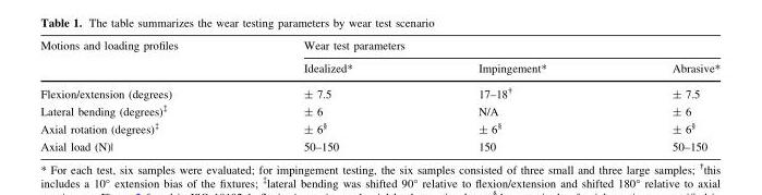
<table><thead><tr><td rowspan="2">Motions and loading profiles</td><td colspan="3">Wear test parameters</td></tr><tr><td>Idealized*</td><td>Impingement*</td><td>Abrasive*</td></tr></thead><tbody><tr><td>Flexion/extension (degrees)</td><td>± 7.5</td><td>17–18<sup>†</sup></td><td>± 7.5</td></tr><tr><td>Lateral bending (degrees)<sup>‡</sup></td><td>± 6</td><td>N/A</td><td>± 6</td></tr><tr><td>Axial rotation (degrees)<sup>‡</sup></td><td>± 6<sup>§</sup></td><td>± 6<sup>§</sup></td><td>± 6<sup>§</sup></td></tr><tr><td>Axial load (N)|</td><td>50–150</td><td>150</td><td>50–150</td></tr></tbody></table>